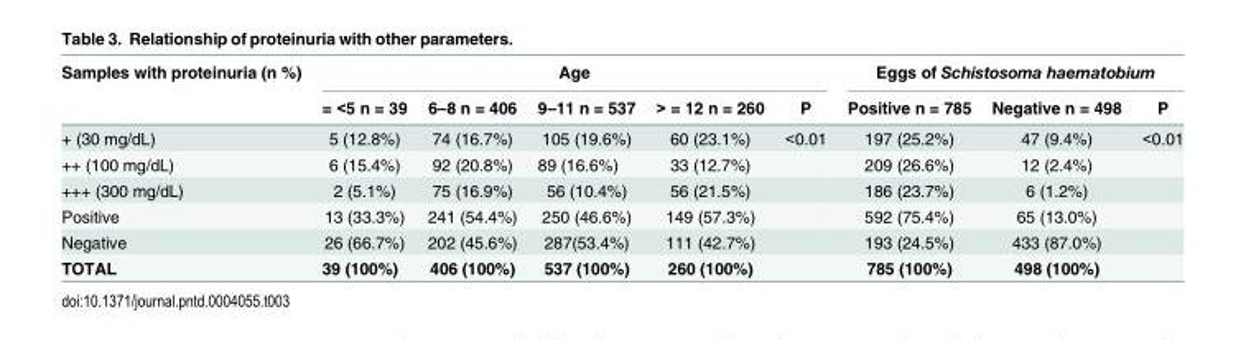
<table><thead><tr><td rowspan="2">Samples with proteinuria (n %)</td><td colspan="5">Age</td><td colspan="3">Eggs of Schistosoma haematobium</td></tr><tr><td>= &lt;5 n = 39</td><td>6–8 n = 406</td><td>9–11 n = 537</td><td>&gt; = 12 n = 260</td><td>P</td><td>Positive n = 785</td><td>Negative n = 498</td><td>P</td></tr></thead><tbody><tr><td>+ (30 mg/dL)</td><td>5 (12.8%)</td><td>74 (16.7%)</td><td>105 (19.6%)</td><td>60 (23.1%)</td><td>&lt;0.01</td><td>197 (25.2%)</td><td>47 (9.4%)</td><td>&lt;0.01</td></tr><tr><td>++ (100 mg/dL)</td><td>6 (15.4%)</td><td>92 (20.8%)</td><td>89 (16.6%)</td><td>33 (12.7%)</td><td></td><td>209 (26.6%)</td><td>12 (2.4%)</td><td></td></tr><tr><td>+++ (300 mg/dL)</td><td>2 (5.1%)</td><td>75 (16.9%)</td><td>56 (10.4%)</td><td>56 (21.5%)</td><td></td><td>186 (23.7%)</td><td>6 (1.2%)</td><td></td></tr><tr><td>Positive</td><td>13 (33.3%)</td><td>241 (54.4%)</td><td>250 (46.6%)</td><td>149 (57.3%)</td><td></td><td>592 (75.4%)</td><td>65 (13.0%)</td><td></td></tr><tr><td>Negative</td><td>26 (66.7%)</td><td>202 (45.6%)</td><td>287(53.4%)</td><td>111 (42.7%)</td><td></td><td>193 (24.5%)</td><td>433 (87.0%)</td><td></td></tr><tr><td>TOTAL</td><td>39 (100%)</td><td>406 (100%)</td><td>537 (100%)</td><td>260 (100%)</td><td></td><td>785 (100%)</td><td>498 (100%)</td><td></td></tr></tbody></table>